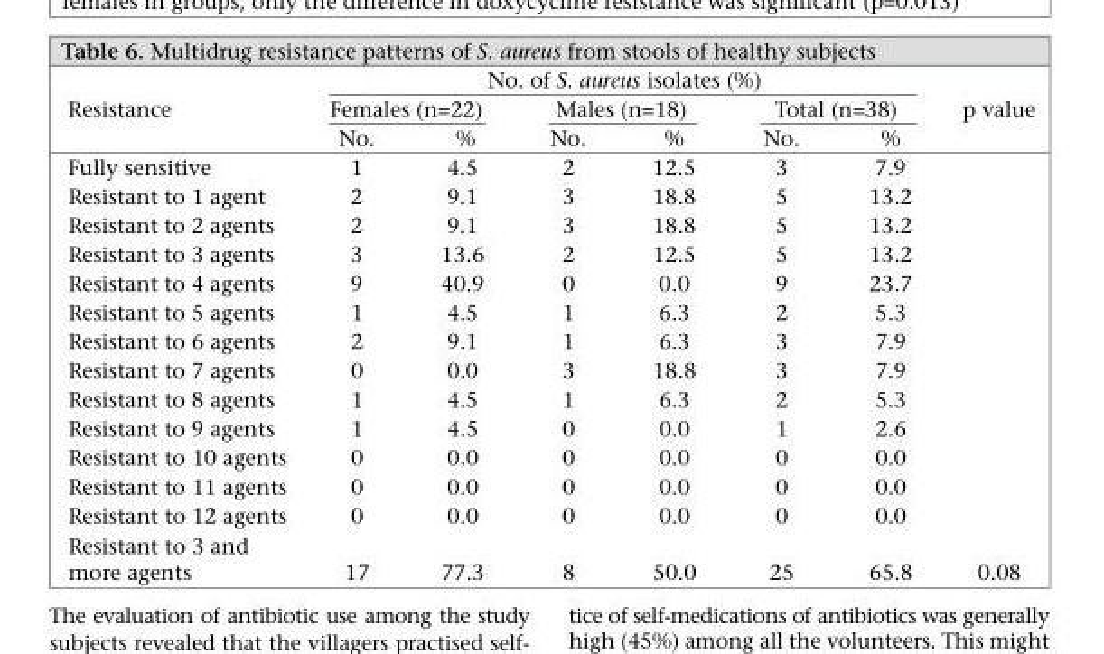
<table><thead><tr><td rowspan="3">Resistance</td><td colspan="6">No. of S. aureus isolates (%)</td><td rowspan="3">p value</td></tr><tr><td colspan="2">Females (n=22)</td><td colspan="2">Males (n=18)</td><td colspan="2">Total (n=38)</td></tr><tr><td>No.</td><td>%</td><td>No.</td><td>%</td><td>No.</td><td>%</td></tr></thead><tbody><tr><td>Fully sensitive</td><td>1</td><td>4.5</td><td>2</td><td>12.5</td><td>3</td><td>7.9</td><td></td></tr><tr><td>Resistant to 1 agent</td><td>2</td><td>9.1</td><td>3</td><td>18.8</td><td>5</td><td>13.2</td><td></td></tr><tr><td>Resistant to 2 agents</td><td>2</td><td>9.1</td><td>3</td><td>18.8</td><td>5</td><td>13.2</td><td></td></tr><tr><td>Resistant to 3 agents</td><td>3</td><td>13.6</td><td>2</td><td>12.5</td><td>5</td><td>13.2</td><td></td></tr><tr><td>Resistant to 4 agents</td><td>9</td><td>40.9</td><td>0</td><td>0.0</td><td>9</td><td>23.7</td><td></td></tr><tr><td>Resistant to 5 agents</td><td>1</td><td>4.5</td><td>1</td><td>6.3</td><td>2</td><td>5.3</td><td></td></tr><tr><td>Resistant to 6 agents</td><td>2</td><td>9.1</td><td>1</td><td>6.3</td><td>3</td><td>7.9</td><td></td></tr><tr><td>Resistant to 7 agents</td><td>0</td><td>0.0</td><td>3</td><td>18.8</td><td>3</td><td>7.9</td><td></td></tr><tr><td>Resistant to 8 agents</td><td>1</td><td>4.5</td><td>1</td><td>6.3</td><td>2</td><td>5.3</td><td></td></tr><tr><td>Resistant to 9 agents</td><td>1</td><td>4.5</td><td>0</td><td>0.0</td><td>1</td><td>2.6</td><td></td></tr><tr><td>Resistant to 10 agents</td><td>0</td><td>0.0</td><td>0</td><td>0.0</td><td>0</td><td>0.0</td><td></td></tr><tr><td>Resistant to 11 agents</td><td>0</td><td>0.0</td><td>0</td><td>0.0</td><td>0</td><td>0.0</td><td></td></tr><tr><td>Resistant to 12 agents</td><td>0</td><td>0.0</td><td>0</td><td>0.0</td><td>0</td><td>0.0</td><td></td></tr><tr><td>Resistant to 3 and more agents</td><td>17</td><td>77.3</td><td>8</td><td>50.0</td><td>25</td><td>65.8</td><td>0.08</td></tr></tbody></table>